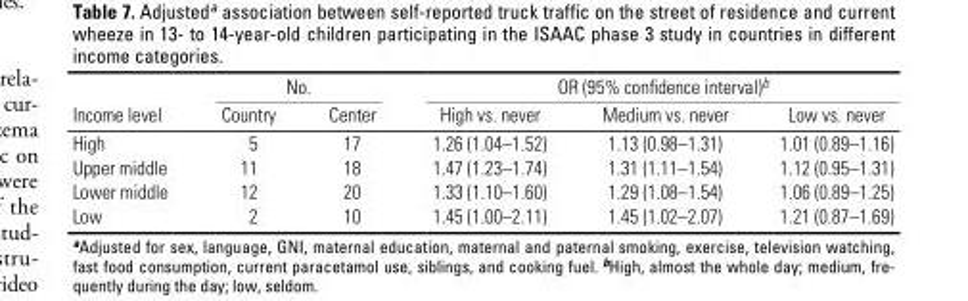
<table><thead><tr><td rowspan="2">Income level</td><td colspan="2">No.</td><td colspan="3">OR (95% confidence interval)<sup>b</sup></td></tr><tr><td>Country</td><td>Center</td><td>High vs. never</td><td>Medium vs. never</td><td>Low vs. never</td></tr></thead><tbody><tr><td>High</td><td>5</td><td>17</td><td>1.26 (1.04–1.52)</td><td>1.13 (0.98–1.31)</td><td>1.01 (0.89–1.16)</td></tr><tr><td>Upper middle</td><td>11</td><td>18</td><td>1.47 (1.23–1.74)</td><td>1.31 (1.11–1.54)</td><td>1.12 (0.95–1.31)</td></tr><tr><td>Lower middle</td><td>12</td><td>20</td><td>1.33 (1.10–1.60)</td><td>1.29 (1.08–1.54)</td><td>1.06 (0.89–1.25)</td></tr><tr><td>Low</td><td>2</td><td>10</td><td>1.45 (1.00–2.11)</td><td>1.45 (1.02–2.07)</td><td>1.21 (0.87–1.69)</td></tr></tbody></table>